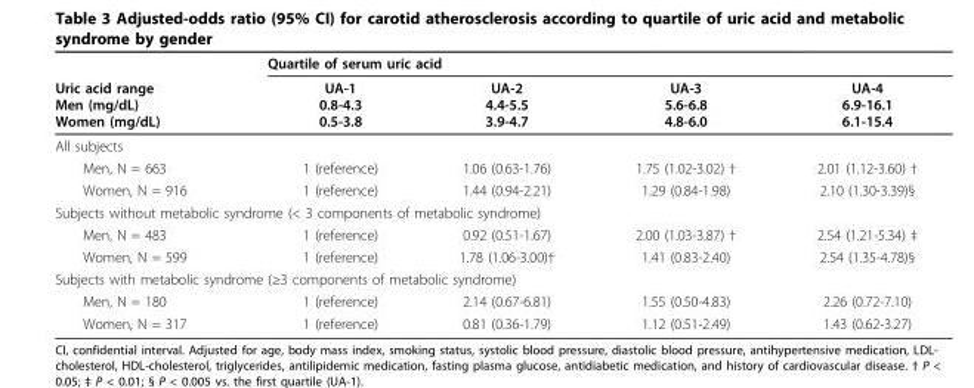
<table><thead><tr><td rowspan="2">Uric acid range Men (mg/dL) Women (mg/dL)</td><td colspan="4">Quartile of serum uric acid</td></tr><tr><td>UA-1 0.8-4.3 0.5-3.8</td><td>UA-2 4.4-5.5 3.9-4.7</td><td>UA-3 5.6-6.8 4.8-6.0</td><td>UA-4 6.9-16.1 6.1-15.4</td></tr></thead><tbody><tr><td colspan="5">All subjects</td></tr><tr><td>Men, N = 663</td><td>1 (reference)</td><td>1.06 (0.63-1.76)</td><td>1.75 (1.02-3.02) †</td><td>2.01 (1.12-3.60) †</td></tr><tr><td>Women, N = 916</td><td>1 (reference)</td><td>1.44 (0.94-2.21)</td><td>1.29 (0.84-1.98)</td><td>2.10 (1.30-3.39)§</td></tr><tr><td colspan="5">Subjects without metabolic syndrome (&lt; 3 components of metabolic syndrome)</td></tr><tr><td>Men, N = 483</td><td>1 (reference)</td><td>0.92 (0.51-1.67)</td><td>2.00 (1.03-3.87) †</td><td>2.54 (1.21-5.34) ‡</td></tr><tr><td>Women, N = 599</td><td>1 (reference)</td><td>1.78 (1.06-3.00)†</td><td>1.41 (0.83-2.40)</td><td>2.54 (1.35-4.78)§</td></tr><tr><td colspan="5">Subjects with metabolic syndrome (≥3 components of metabolic syndrome)</td></tr><tr><td>Men, N = 180</td><td>1 (reference)</td><td>2.14 (0.67-6.81)</td><td>1.55 (0.50-4.83)</td><td>2.26 (0.72-7.10)</td></tr><tr><td>Women, N = 317</td><td>1 (reference)</td><td>0.81 (0.36-1.79)</td><td>1.12 (0.51-2.49)</td><td>1.43 (0.62-3.27)</td></tr></tbody></table>